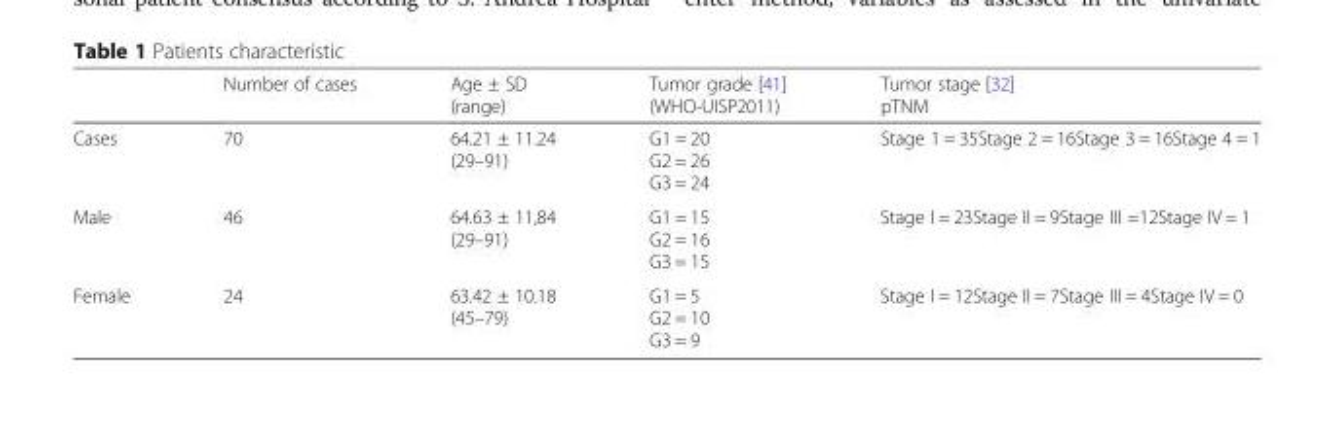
<table><thead><tr><td></td><td>Number of cases</td><td>Age ± SD (range)</td><td>Tumor grade [41] (WHO-UISP2011)</td><td>Tumor stage [32] pTNM</td></tr></thead><tbody><tr><td>Cases</td><td>70</td><td>64.21 ± 11.24 (29–91)</td><td>G1 = 20 G2 = 26 G3 = 24</td><td>Stage 1 = 35Stage 2 = 16Stage 3 = 16Stage 4 = 1</td></tr><tr><td>Male</td><td>46</td><td>64.63 ± 11,84 (29–91)</td><td>G1 = 15 G2 = 16 G3 = 15</td><td>Stage I = 23Stage II = 9Stage III =12Stage IV = 1</td></tr><tr><td>Female</td><td>24</td><td>63.42 ± 10.18 (45–79)</td><td>G1 = 5 G2 = 10 G3 = 9</td><td>Stage I = 12Stage II = 7Stage III = 4Stage IV = 0</td></tr></tbody></table>